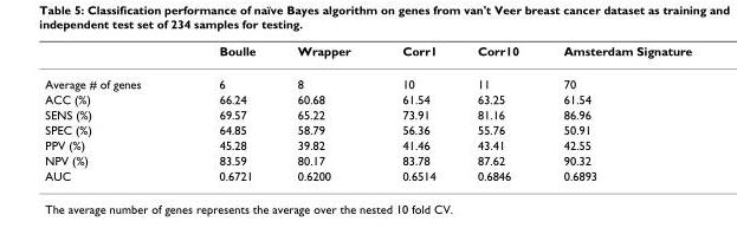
<table><thead><tr><td></td><td>Boulle</td><td>Wrapper</td><td>Corr1</td><td>Corr10</td><td>Amsterdam Signature</td></tr></thead><tbody><tr><td>Average # of genes</td><td>6</td><td>8</td><td>10</td><td>11</td><td>70</td></tr><tr><td>ACC (%)</td><td>66.24</td><td>60.68</td><td>61.54</td><td>63.25</td><td>61.54</td></tr><tr><td>SENS (%)</td><td>69.57</td><td>65.22</td><td>73.91</td><td>81.16</td><td>86.96</td></tr><tr><td>SPEC (%)</td><td>64.85</td><td>58.79</td><td>56.36</td><td>55.76</td><td>50.91</td></tr><tr><td>PPV (%)</td><td>45.28</td><td>39.82</td><td>41.46</td><td>43.41</td><td>42.55</td></tr><tr><td>NPV (%)</td><td>83.59</td><td>80.17</td><td>83.78</td><td>87.62</td><td>90.32</td></tr><tr><td>AUC</td><td>0.6721</td><td>0.6200</td><td>0.6514</td><td>0.6846</td><td>0.6893</td></tr></tbody></table>